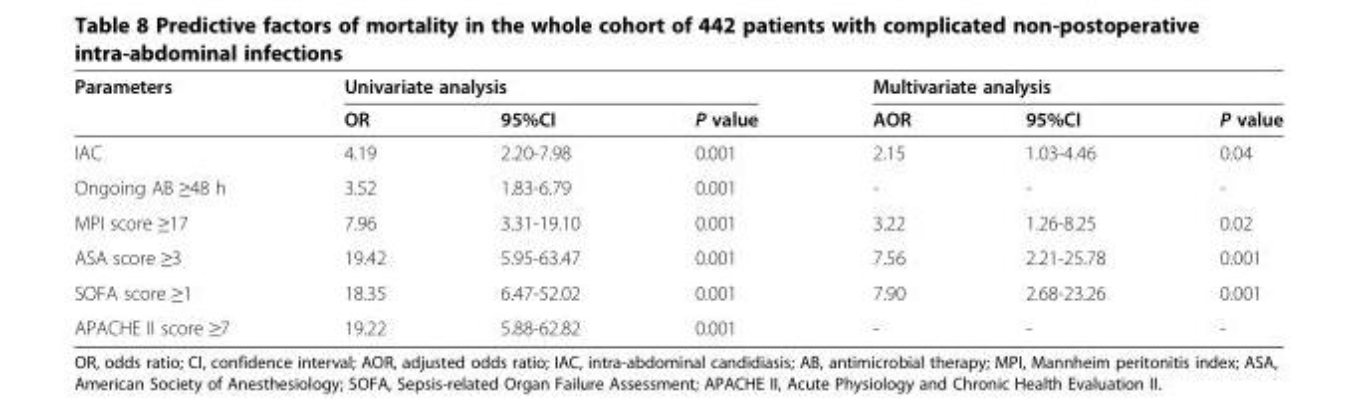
<table><thead><tr><td rowspan="2">Parameters</td><td colspan="3">Univariate analysis</td><td colspan="3">Multivariate analysis</td></tr><tr><td>OR</td><td>95%CI</td><td>P value</td><td>AOR</td><td>95%CI</td><td>P value</td></tr></thead><tbody><tr><td>IAC</td><td>4.19</td><td>2.20-7.98</td><td>0.001</td><td>2.15</td><td>1.03-4.46</td><td>0.04</td></tr><tr><td>Ongoing AB ≥48 h</td><td>3.52</td><td>1.83-6.79</td><td>0.001</td><td>-</td><td>-</td><td>-</td></tr><tr><td>MPI score ≥17</td><td>7.96</td><td>3.31-19.10</td><td>0.001</td><td>3.22</td><td>1.26-8.25</td><td>0.02</td></tr><tr><td>ASA score ≥3</td><td>19.42</td><td>5.95-63.47</td><td>0.001</td><td>7.56</td><td>2.21-25.78</td><td>0.001</td></tr><tr><td>SOFA score ≥1</td><td>18.35</td><td>6.47-52.02</td><td>0.001</td><td>7.90</td><td>2.68-23.26</td><td>0.001</td></tr><tr><td>APACHE II score ≥7</td><td>19.22</td><td>5.88-62.82</td><td>0.001</td><td>-</td><td>-</td><td>-</td></tr></tbody></table>